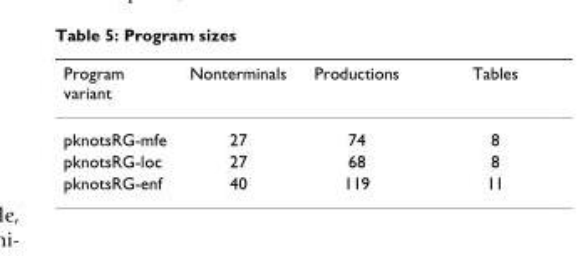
<table><thead><tr><td>Program variant</td><td>Nonterminals</td><td>Productions</td><td>Tables</td></tr></thead><tbody><tr><td>pknotsRG-mfe</td><td>27</td><td>74</td><td>8</td></tr><tr><td>pknotsRG-loc</td><td>27</td><td>68</td><td>8</td></tr><tr><td>pknotsRG-enf</td><td>40</td><td>119</td><td>11</td></tr></tbody></table>